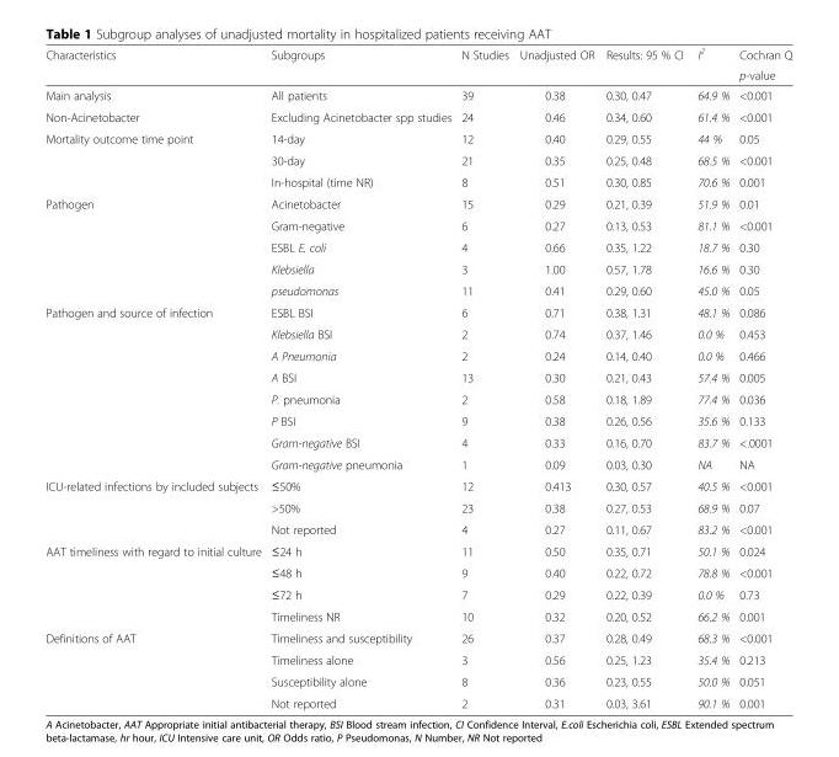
<table><thead><tr><td rowspan="2">Characteristics</td><td rowspan="2">Subgroups</td><td rowspan="2">N Studies</td><td rowspan="2">Unadjusted OR</td><td rowspan="2">Results: 95 % CI</td><td rowspan="2">I<sup>2</sup></td><td rowspan="2">Cochran Q p-value</td></tr><tr></tr></thead><tbody><tr><td>Main analysis</td><td>All patients</td><td>39</td><td>0.38</td><td>0.30, 0.47</td><td>64.9 %</td><td>&lt;0.001</td></tr><tr><td>Non-Acinetobacter</td><td>Excluding Acinetobacter spp studies</td><td>24</td><td>0.46</td><td>0.34, 0.60</td><td>61.4 %</td><td>&lt;0.001</td></tr><tr><td rowspan="3">Mortality outcome time point</td><td>14-day</td><td>12</td><td>0.40</td><td>0.29, 0.55</td><td>44 %</td><td>0.05</td></tr><tr><td>30-day</td><td>21</td><td>0.35</td><td>0.25, 0.48</td><td>68.5 %</td><td>&lt;0.001</td></tr><tr><td>In-hospital (time NR)</td><td>8</td><td>0.51</td><td>0.30, 0.85</td><td>70.6 %</td><td>0.001</td></tr><tr><td rowspan="5">Pathogen</td><td>Acinetobacter</td><td>15</td><td>0.29</td><td>0.21, 0.39</td><td>51.9 %</td><td>0.01</td></tr><tr><td>Gram-negative</td><td>6</td><td>0.27</td><td>0.13, 0.53</td><td>81.1 %</td><td>&lt;0.001</td></tr><tr><td>ESBL E. coli</td><td>4</td><td>0.66</td><td>0.35, 1.22</td><td>18.7 %</td><td>0.30</td></tr><tr><td>Klebsiella</td><td>3</td><td>1.00</td><td>0.57, 1.78</td><td>16.6 %</td><td>0.30</td></tr><tr><td>pseudomonas</td><td>11</td><td>0.41</td><td>0.29, 0.60</td><td>45.0 %</td><td>0.05</td></tr><tr><td rowspan="8">Pathogen and source of infection</td><td>ESBL BSI</td><td>6</td><td>0.71</td><td>0.38, 1.31</td><td>48.1 %</td><td>0.086</td></tr><tr><td>Klebsiella BSI</td><td>2</td><td>0.74</td><td>0.37, 1.46</td><td>0.0 %</td><td>0.453</td></tr><tr><td>A Pneumonia</td><td>2</td><td>0.24</td><td>0.14, 0.40</td><td>0.0 %</td><td>0.466</td></tr><tr><td>A BSI</td><td>13</td><td>0.30</td><td>0.21, 0.43</td><td>57.4 %</td><td>0.005</td></tr><tr><td>P. pneumonia</td><td>2</td><td>0.58</td><td>0.18, 1.89</td><td>77.4 %</td><td>0.036</td></tr><tr><td>P BSI</td><td>9</td><td>0.38</td><td>0.26, 0.56</td><td>35.6 %</td><td>0.133</td></tr><tr><td>Gram-negative BSI</td><td>4</td><td>0.33</td><td>0.16, 0.70</td><td>83.7 %</td><td>&lt;.0001</td></tr><tr><td>Gram-negative pneumonia</td><td>1</td><td>0.09</td><td>0.03, 0.30</td><td>NA</td><td>NA</td></tr><tr><td rowspan="3">ICU-related infections by included subjects</td><td>≤50%</td><td>12</td><td>0.413</td><td>0.30, 0.57</td><td>40.5 %</td><td>&lt;0.001</td></tr><tr><td>&gt;50%</td><td>23</td><td>0.38</td><td>0.27, 0.53</td><td>68.9 %</td><td>0.07</td></tr><tr><td>Not reported</td><td>4</td><td>0.27</td><td>0.11, 0.67</td><td>83.2 %</td><td>&lt;0.001</td></tr><tr><td rowspan="4">AAT timeliness with regard to initial culture</td><td>≤24 h</td><td>11</td><td>0.50</td><td>0.35, 0.71</td><td>50.1 %</td><td>0.024</td></tr><tr><td>≤48 h</td><td>9</td><td>0.40</td><td>0.22, 0.72</td><td>78.8 %</td><td>&lt;0.001</td></tr><tr><td>≤72 h</td><td>7</td><td>0.29</td><td>0.22, 0.39</td><td>0.0 %</td><td>0.73</td></tr><tr><td>Timeliness NR</td><td>10</td><td>0.32</td><td>0.20, 0.52</td><td>66.2 %</td><td>0.001</td></tr><tr><td rowspan="4">Definitions of AAT</td><td>Timeliness and susceptibility</td><td>26</td><td>0.37</td><td>0.28, 0.49</td><td>68.3 %</td><td>&lt;0.001</td></tr><tr><td>Timeliness alone</td><td>3</td><td>0.56</td><td>0.25, 1.23</td><td>35.4 %</td><td>0.213</td></tr><tr><td>Susceptibility alone</td><td>8</td><td>0.36</td><td>0.23, 0.55</td><td>50.0 %</td><td>0.051</td></tr><tr><td>Not reported</td><td>2</td><td>0.31</td><td>0.03, 3.61</td><td>90.1 %</td><td>0.001</td></tr></tbody></table>